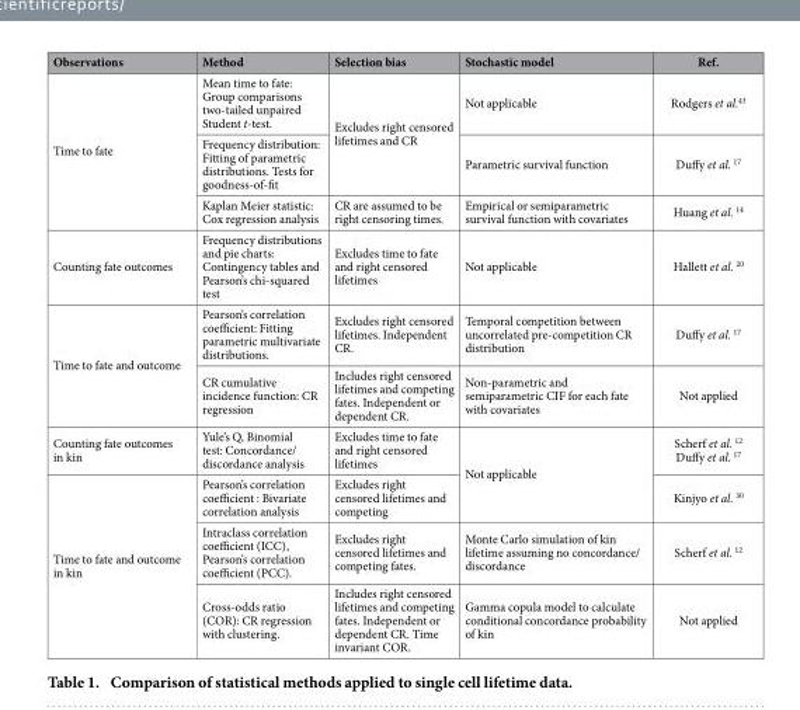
<table><thead><tr><td>Observations</td><td>Method</td><td>Selection bias</td><td>Stochastic model</td><td>Ref.</td></tr></thead><tbody><tr><td rowspan="3">Time to fate</td><td>Mean time to fate: Group comparisons two-tailed unpaired Student t-test.</td><td rowspan="2">Excludes right censored lifetimes and CR</td><td>Not applicable</td><td>Rodgers et al.<sup>43</sup></td></tr><tr><td>Frequency distribution: Fitting of parametric distributions. Tests for goodness-of-fit</td><td>Parametric survival function</td><td>Duffy et al. <sup>17</sup></td></tr><tr><td>Kaplan Meier statistic: Cox regression analysis</td><td>CR are assumed to be right censoring times.</td><td>Empirical or semiparametric survival function with covariates</td><td>Huang et al. <sup>14</sup></td></tr><tr><td>Counting fate outcomes</td><td>Frequency distributions and pie charts: Contingency tables and Pearson’s chi-squared test</td><td>Excludes time to fate and right censored lifetimes</td><td>Not applicable</td><td>Hallett et al. <sup>20</sup></td></tr><tr><td rowspan="2">Time to fate and outcome</td><td>Pearson’s correlation coefficient: Fitting parametric multivariate distributions.</td><td>Excludes right censored lifetimes. Independent CR.</td><td>Temporal competition between uncorrelated pre-competition CR distribution</td><td>Duffy et al. <sup>17</sup></td></tr><tr><td>CR cumulative incidence function: CR regression</td><td>Includes right censored lifetimes and competing fates. Independent or dependent CR.</td><td>Non-parametric and semiparametric CIF for each fate with covariates</td><td>Not applied</td></tr><tr><td>Counting fate outcomes in kin</td><td>Yule’s Q, Binomial test: Concordance/ discordance analysis</td><td>Excludes time to fate and right censored lifetimes</td><td rowspan="2">Not applicable</td><td>Scherf et al. <sup>12</sup> Duffy et al. <sup>17</sup></td></tr><tr><td rowspan="3">Time to fate and outcome in kin</td><td>Pearson’s correlation coefficient : Bivariate correlation analysis</td><td>Excludes right censored lifetimes and competing</td><td>Kinjyo et al. <sup>30</sup></td></tr><tr><td>Intraclass correlation coefficient (ICC), Pearson’s correlation coefficient (PCC).</td><td>Excludes right censored lifetimes and competing fates.</td><td>Monte Carlo simulation of kin lifetime assuming no concordance/ discordance</td><td>Scherf et al. <sup>12</sup></td></tr><tr><td>Cross-odds ratio (COR): CR regression with clustering.</td><td>Includes right censored lifetimes and competing fates. Independent or dependent CR. Time invariant COR.</td><td>Gamma copula model to calculate conditional concordance probability of kin</td><td>Not applied</td></tr></tbody></table>